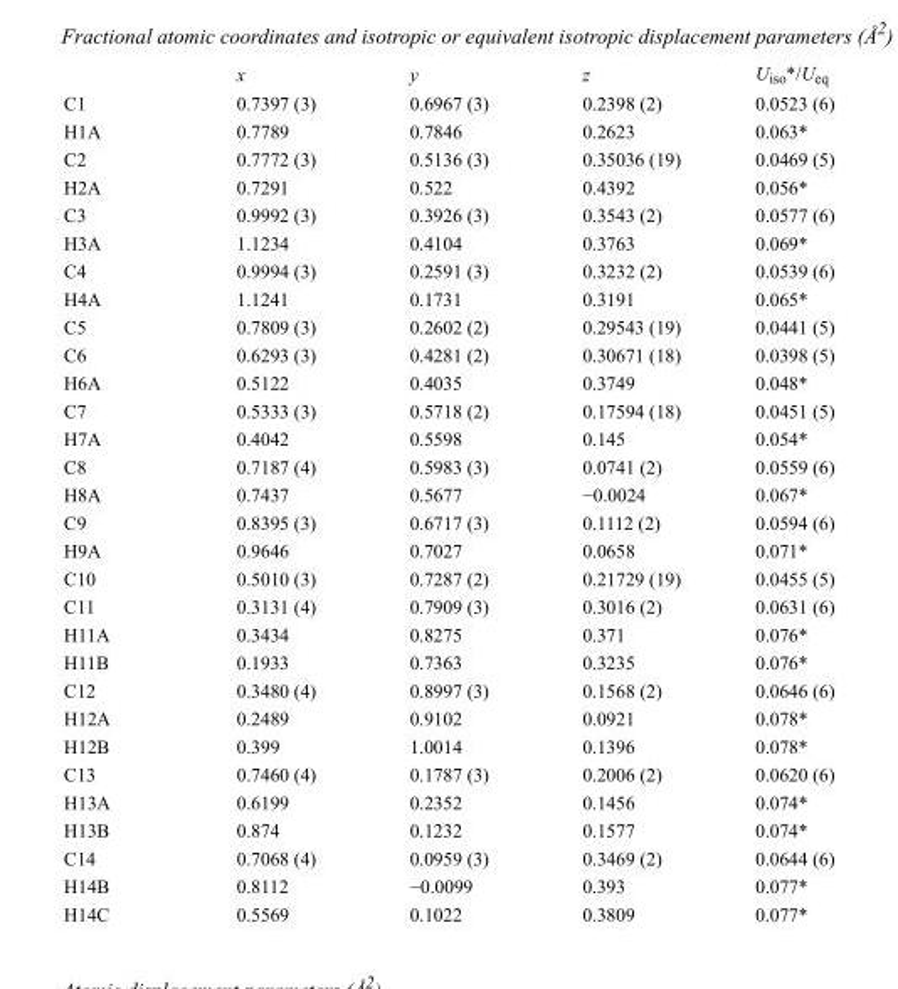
<table><thead><tr><td></td><td>x</td><td>y</td><td>z</td><td>U<sub>iso</sub>*/U<sub>eq</sub></td></tr></thead><tbody><tr><td>C1</td><td>0.7397 (3)</td><td>0.6967 (3)</td><td>0.2398 (2)</td><td>0.0523 (6)</td></tr><tr><td>H1A</td><td>0.7789</td><td>0.7846</td><td>0.2623</td><td>0.063*</td></tr><tr><td>C2</td><td>0.7772 (3)</td><td>0.5136 (3)</td><td>0.35036 (19)</td><td>0.0469 (5)</td></tr><tr><td>H2A</td><td>0.7291</td><td>0.522</td><td>0.4392</td><td>0.056*</td></tr><tr><td>C3</td><td>0.9992 (3)</td><td>0.3926 (3)</td><td>0.3543 (2)</td><td>0.0577 (6)</td></tr><tr><td>H3A</td><td>1.1234</td><td>0.4104</td><td>0.3763</td><td>0.069*</td></tr><tr><td>C4</td><td>0.9994 (3)</td><td>0.2591 (3)</td><td>0.3232 (2)</td><td>0.0539 (6)</td></tr><tr><td>H4A</td><td>1.1241</td><td>0.1731</td><td>0.3191</td><td>0.065*</td></tr><tr><td>C5</td><td>0.7809 (3)</td><td>0.2602 (2)</td><td>0.29543 (19)</td><td>0.0441 (5)</td></tr><tr><td>C6</td><td>0.6293 (3)</td><td>0.4281 (2)</td><td>0.30671 (18)</td><td>0.0398 (5)</td></tr><tr><td>H6A</td><td>0.5122</td><td>0.4035</td><td>0.3749</td><td>0.048*</td></tr><tr><td>C7</td><td>0.5333 (3)</td><td>0.5718 (2)</td><td>0.17594 (18)</td><td>0.0451 (5)</td></tr><tr><td>H7A</td><td>0.4042</td><td>0.5598</td><td>0.145</td><td>0.054*</td></tr><tr><td>C8</td><td>0.7187 (4)</td><td>0.5983 (3)</td><td>0.0741 (2)</td><td>0.0559 (6)</td></tr><tr><td>H8A</td><td>0.7437</td><td>0.5677</td><td>−0.0024</td><td>0.067*</td></tr><tr><td>C9</td><td>0.8395 (3)</td><td>0.6717 (3)</td><td>0.1112 (2)</td><td>0.0594 (6)</td></tr><tr><td>H9A</td><td>0.9646</td><td>0.7027</td><td>0.0658</td><td>0.071*</td></tr><tr><td>C10</td><td>0.5010 (3)</td><td>0.7287 (2)</td><td>0.21729 (19)</td><td>0.0455 (5)</td></tr><tr><td>C11</td><td>0.3131 (4)</td><td>0.7909 (3)</td><td>0.3016 (2)</td><td>0.0631 (6)</td></tr><tr><td>H11A</td><td>0.3434</td><td>0.8275</td><td>0.371</td><td>0.076*</td></tr><tr><td>H11B</td><td>0.1933</td><td>0.7363</td><td>0.3235</td><td>0.076*</td></tr><tr><td>C12</td><td>0.3480 (4)</td><td>0.8997 (3)</td><td>0.1568 (2)</td><td>0.0646 (6)</td></tr><tr><td>H12A</td><td>0.2489</td><td>0.9102</td><td>0.0921</td><td>0.078*</td></tr><tr><td>H12B</td><td>0.399</td><td>1.0014</td><td>0.1396</td><td>0.078*</td></tr><tr><td>C13</td><td>0.7460 (4)</td><td>0.1787 (3)</td><td>0.2006 (2)</td><td>0.0620 (6)</td></tr><tr><td>H13A</td><td>0.6199</td><td>0.2352</td><td>0.1456</td><td>0.074*</td></tr><tr><td>H13B</td><td>0.874</td><td>0.1232</td><td>0.1577</td><td>0.074*</td></tr><tr><td>C14</td><td>0.7068 (4)</td><td>0.0959 (3)</td><td>0.3469 (2)</td><td>0.0644 (6)</td></tr><tr><td>H14B</td><td>0.8112</td><td>−0.0099</td><td>0.393</td><td>0.077*</td></tr><tr><td>H14C</td><td>0.5569</td><td>0.1022</td><td>0.3809</td><td>0.077*</td></tr></tbody></table>